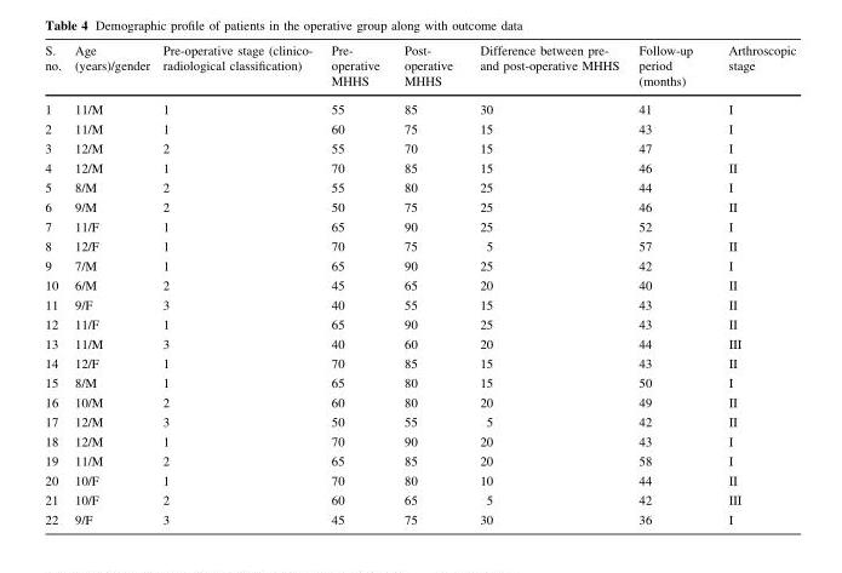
<table><thead><tr><td>S. no.</td><td>Age (years)/gender</td><td>Pre-operative stage (clinico- radiological classification)</td><td>Pre- operative MHHS</td><td>Post- operative MHHS</td><td>Difference between pre- and post-operative MHHS</td><td>Follow-up period (months)</td><td>Arthroscopic stage</td></tr></thead><tbody><tr><td>1</td><td>11/M</td><td>1</td><td>55</td><td>85</td><td>30</td><td>41</td><td>I</td></tr><tr><td>2</td><td>11/M</td><td>1</td><td>60</td><td>75</td><td>15</td><td>43</td><td>I</td></tr><tr><td>3</td><td>12/M</td><td>2</td><td>55</td><td>70</td><td>15</td><td>47</td><td>I</td></tr><tr><td>4</td><td>12/M</td><td>1</td><td>70</td><td>85</td><td>15</td><td>46</td><td>II</td></tr><tr><td>5</td><td>8/M</td><td>2</td><td>55</td><td>80</td><td>25</td><td>44</td><td>I</td></tr><tr><td>6</td><td>9/M</td><td>2</td><td>50</td><td>75</td><td>25</td><td>46</td><td>II</td></tr><tr><td>7</td><td>11/F</td><td>1</td><td>65</td><td>90</td><td>25</td><td>52</td><td>I</td></tr><tr><td>8</td><td>12/F</td><td>1</td><td>70</td><td>75</td><td>5</td><td>57</td><td>II</td></tr><tr><td>9</td><td>7/M</td><td>1</td><td>65</td><td>90</td><td>25</td><td>42</td><td>I</td></tr><tr><td>10</td><td>6/M</td><td>2</td><td>45</td><td>65</td><td>20</td><td>40</td><td>II</td></tr><tr><td>11</td><td>9/F</td><td>3</td><td>40</td><td>55</td><td>15</td><td>43</td><td>II</td></tr><tr><td>12</td><td>11/F</td><td>1</td><td>65</td><td>90</td><td>25</td><td>43</td><td>II</td></tr><tr><td>13</td><td>11/M</td><td>3</td><td>40</td><td>60</td><td>20</td><td>44</td><td>III</td></tr><tr><td>14</td><td>12/F</td><td>1</td><td>70</td><td>85</td><td>15</td><td>43</td><td>II</td></tr><tr><td>15</td><td>8/M</td><td>1</td><td>65</td><td>80</td><td>15</td><td>50</td><td>I</td></tr><tr><td>16</td><td>10/M</td><td>2</td><td>60</td><td>80</td><td>20</td><td>49</td><td>II</td></tr><tr><td>17</td><td>12/M</td><td>3</td><td>50</td><td>55</td><td>5</td><td>42</td><td>II</td></tr><tr><td>18</td><td>12/M</td><td>1</td><td>70</td><td>90</td><td>20</td><td>43</td><td>I</td></tr><tr><td>19</td><td>11/M</td><td>2</td><td>65</td><td>85</td><td>20</td><td>58</td><td>I</td></tr><tr><td>20</td><td>10/F</td><td>1</td><td>70</td><td>80</td><td>10</td><td>44</td><td>II</td></tr><tr><td>21</td><td>10/F</td><td>2</td><td>60</td><td>65</td><td>5</td><td>42</td><td>III</td></tr><tr><td>22</td><td>9/F</td><td>3</td><td>45</td><td>75</td><td>30</td><td>36</td><td>I</td></tr></tbody></table>